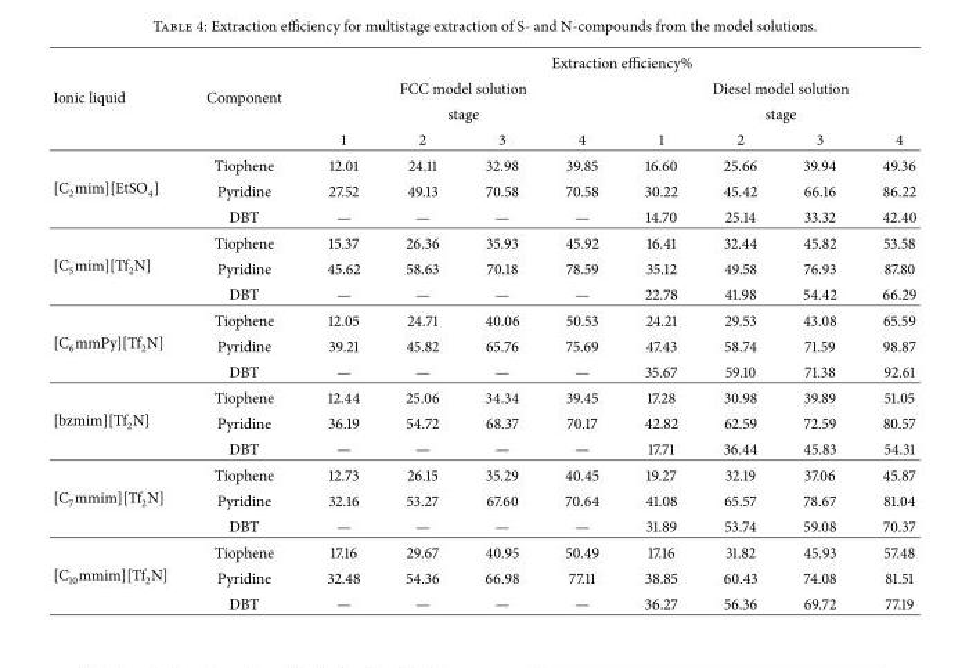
<table><thead><tr><td rowspan="4">Ionic liquid</td><td rowspan="4">Component</td><td colspan="8">Extraction efficiency%</td></tr><tr><td rowspan="2" colspan="4">FCC model solution stage</td><td rowspan="2" colspan="4">Diesel model solution stage</td></tr><tr></tr><tr><td>1</td><td>2</td><td>3</td><td>4</td><td>1</td><td>2</td><td>3</td><td>4</td></tr></thead><tbody><tr><td rowspan="3">[C<sub>2</sub>mim][EtSO<sub>4</sub>]</td><td>Tiophene</td><td>12.01</td><td>24.11</td><td>32.98</td><td>39.85</td><td>16.60</td><td>25.66</td><td>39.94</td><td>49.36</td></tr><tr><td>Pyridine</td><td>27.52</td><td>49.13</td><td>70.58</td><td>70.58</td><td>30.22</td><td>45.42</td><td>66.16</td><td>86.22</td></tr><tr><td>DBT</td><td>—</td><td>—</td><td>—</td><td>—</td><td>14.70</td><td>25.14</td><td>33.32</td><td>42.40</td></tr><tr><td rowspan="3">[C<sub>5</sub>mim][Tf<sub>2</sub>N]</td><td>Tiophene</td><td>15.37</td><td>26.36</td><td>35.93</td><td>45.92</td><td>16.41</td><td>32.44</td><td>45.82</td><td>53.58</td></tr><tr><td>Pyridine</td><td>45.62</td><td>58.63</td><td>70.18</td><td>78.59</td><td>35.12</td><td>49.58</td><td>76.93</td><td>87.80</td></tr><tr><td>DBT</td><td>—</td><td>—</td><td>—</td><td>—</td><td>22.78</td><td>41.98</td><td>54.42</td><td>66.29</td></tr><tr><td rowspan="3">[C<sub>6</sub>mmPy][Tf<sub>2</sub>N]</td><td>Tiophene</td><td>12.05</td><td>24.71</td><td>40.06</td><td>50.53</td><td>24.21</td><td>29.53</td><td>43.08</td><td>65.59</td></tr><tr><td>Pyridine</td><td>39.21</td><td>45.82</td><td>65.76</td><td>75.69</td><td>47.43</td><td>58.74</td><td>71.59</td><td>98.87</td></tr><tr><td>DBT</td><td>—</td><td>—</td><td>—</td><td>—</td><td>35.67</td><td>59.10</td><td>71.38</td><td>92.61</td></tr><tr><td rowspan="3">[bzmim][Tf<sub>2</sub>N]</td><td>Tiophene</td><td>12.44</td><td>25.06</td><td>34.34</td><td>39.45</td><td>17.28</td><td>30.98</td><td>39.89</td><td>51.05</td></tr><tr><td>Pyridine</td><td>36.19</td><td>54.72</td><td>68.37</td><td>70.17</td><td>42.82</td><td>62.59</td><td>72.59</td><td>80.57</td></tr><tr><td>DBT</td><td>—</td><td>—</td><td>—</td><td>—</td><td>17.71</td><td>36.44</td><td>45.83</td><td>54.31</td></tr><tr><td rowspan="3">[C<sub>7</sub>mmim][Tf<sub>2</sub>N]</td><td>Tiophene</td><td>12.73</td><td>26.15</td><td>35.29</td><td>40.45</td><td>19.27</td><td>32.19</td><td>37.06</td><td>45.87</td></tr><tr><td>Pyridine</td><td>32.16</td><td>53.27</td><td>67.60</td><td>70.64</td><td>41.08</td><td>65.57</td><td>78.67</td><td>81.04</td></tr><tr><td>DBT</td><td>—</td><td>—</td><td>—</td><td>—</td><td>31.89</td><td>53.74</td><td>59.08</td><td>70.37</td></tr><tr><td rowspan="3">[C<sub>10</sub>mmim][Tf<sub>2</sub>N]</td><td>Tiophene</td><td>17.16</td><td>29.67</td><td>40.95</td><td>50.49</td><td>17.16</td><td>31.82</td><td>45.93</td><td>57.48</td></tr><tr><td>Pyridine</td><td>32.48</td><td>54.36</td><td>66.98</td><td>77.11</td><td>38.85</td><td>60.43</td><td>74.08</td><td>81.51</td></tr><tr><td>DBT</td><td>—</td><td>—</td><td>—</td><td>—</td><td>36.27</td><td>56.36</td><td>69.72</td><td>77.19</td></tr></tbody></table>